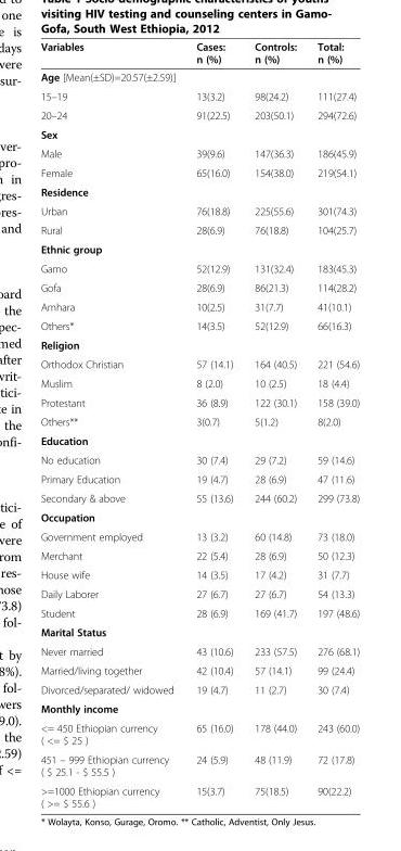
<table><thead><tr><td>Variables</td><td>Cases: n (%)</td><td>Controls: n (%)</td><td>Total: n (%)</td></tr></thead><tbody><tr><td colspan="4">Age [Mean(±SD)=20.57(±2.59)]</td></tr><tr><td>15–19</td><td>13(3.2)</td><td>98(24.2)</td><td>111(27.4)</td></tr><tr><td>20–24</td><td>91(22.5)</td><td>203(50.1)</td><td>294(72.6)</td></tr><tr><td colspan="4">Sex</td></tr><tr><td>Male</td><td>39(9.6)</td><td>147(36.3)</td><td>186(45.9)</td></tr><tr><td>Female</td><td>65(16.0)</td><td>154(38.0)</td><td>219(54.1)</td></tr><tr><td colspan="4">Residence</td></tr><tr><td>Urban</td><td>76(18.8)</td><td>225(55.6)</td><td>301(74.3)</td></tr><tr><td>Rural</td><td>28(6.9)</td><td>76(18.8)</td><td>104(25.7)</td></tr><tr><td colspan="4">Ethnic group</td></tr><tr><td>Gamo</td><td>52(12.9)</td><td>131(32.4)</td><td>183(45.3)</td></tr><tr><td>Gofa</td><td>28(6.9)</td><td>86(21.3)</td><td>114(28.2)</td></tr><tr><td>Amhara</td><td>10(2.5)</td><td>31(7.7)</td><td>41(10.1)</td></tr><tr><td>Others*</td><td>14(3.5)</td><td>52(12.9)</td><td>66(16.3)</td></tr><tr><td colspan="4">Religion</td></tr><tr><td>Orthodox Christian</td><td>57 (14.1)</td><td>164 (40.5)</td><td>221 (54.6)</td></tr><tr><td>Muslim</td><td>8 (2.0)</td><td>10 (2.5)</td><td>18 (4.4)</td></tr><tr><td>Protestant</td><td>36 (8.9)</td><td>122 (30.1)</td><td>158 (39.0)</td></tr><tr><td>Others**</td><td>3(0.7)</td><td>5(1.2)</td><td>8(2.0)</td></tr><tr><td colspan="4">Education</td></tr><tr><td>No education</td><td>30 (7.4)</td><td>29 (7.2)</td><td>59 (14.6)</td></tr><tr><td>Primary Education</td><td>19 (4.7)</td><td>28 (6.9)</td><td>47 (11.6)</td></tr><tr><td>Secondary &amp; above</td><td>55 (13.6)</td><td>244 (60.2)</td><td>299 (73.8)</td></tr><tr><td colspan="4">Occupation</td></tr><tr><td>Government employed</td><td>13 (3.2)</td><td>60 (14.8)</td><td>73 (18.0)</td></tr><tr><td>Merchant</td><td>22 (5.4)</td><td>28 (6.9)</td><td>50 (12.3)</td></tr><tr><td>House wife</td><td>14 (3.5)</td><td>17 (4.2)</td><td>31 (7.7)</td></tr><tr><td>Daily Laborer</td><td>27 (6.7)</td><td>27 (6.7)</td><td>54 (13.3)</td></tr><tr><td>Student</td><td>28 (6.9)</td><td>169 (41.7)</td><td>197 (48.6)</td></tr><tr><td colspan="4">Marital Status</td></tr><tr><td>Never married</td><td>43 (10.6)</td><td>233 (57.5)</td><td>276 (68.1)</td></tr><tr><td>Married/living together</td><td>42 (10.4)</td><td>57 (14.1)</td><td>99 (24.4)</td></tr><tr><td>Divorced/separated/ widowed</td><td>19 (4.7)</td><td>11 (2.7)</td><td>30 (7.4)</td></tr><tr><td colspan="4">Monthly income</td></tr><tr><td>&lt;= 450 Ethiopian currency ( &lt;= $ 25 )</td><td>65 (16.0)</td><td>178 (44.0)</td><td>243 (60.0)</td></tr><tr><td>451 – 999 Ethiopian currency ( $ 25.1 - $ 55.5 )</td><td>24 (5.9)</td><td>48 (11.9)</td><td>72 (17.8)</td></tr><tr><td>&gt;=1000 Ethiopian currency ( &gt;= $ 55.6 )</td><td>15(3.7)</td><td>75(18.5)</td><td>90(22.2)</td></tr></tbody></table>